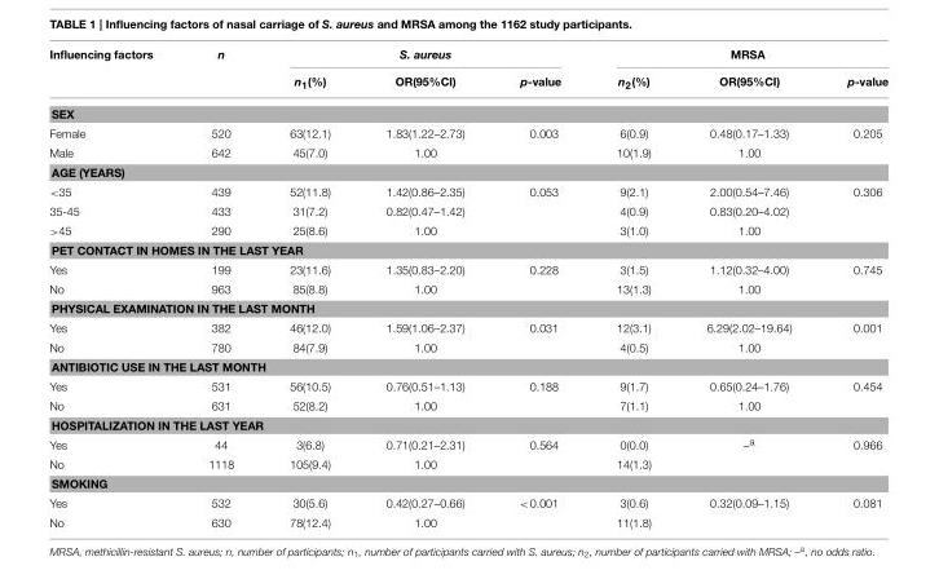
<table><thead><tr><td rowspan="2">Influencing factors</td><td rowspan="2">n</td><td colspan="3">S. aureus</td><td colspan="3">MRSA</td></tr><tr><td>n<sub>1</sub>(%)</td><td>OR(95%CI)</td><td>p-value</td><td>n<sub>2</sub>(%)</td><td>OR(95%CI)</td><td>p-value</td></tr></thead><tbody><tr><td colspan="8">SEX</td></tr><tr><td>Female</td><td>520</td><td>63(12.1)</td><td>1.83(1.22–2.73)</td><td>0.003</td><td>6(0.9)</td><td>0.48(0.17–1.33)</td><td>0.205</td></tr><tr><td>Male</td><td>642</td><td>45(7.0)</td><td>1.00</td><td></td><td>10(1.9)</td><td>1.00</td><td></td></tr><tr><td colspan="8">AGE (YEARS)</td></tr><tr><td>&lt;35</td><td>439</td><td>52(11.8)</td><td>1.42(0.86–2.35)</td><td>0.053</td><td>9(2.1)</td><td>2.00(0.54–7.46)</td><td>0.306</td></tr><tr><td>35-45</td><td>433</td><td>31(7.2)</td><td>0.82(0.47–1.42)</td><td></td><td>4(0.9)</td><td>0.83(0.20–4.02)</td><td></td></tr><tr><td>&gt;45</td><td>290</td><td>25(8.6)</td><td>1.00</td><td></td><td>3(1.0)</td><td>1.00</td><td></td></tr><tr><td colspan="8">PET CONTACT IN HOMES IN THE LAST YEAR</td></tr><tr><td>Yes</td><td>199</td><td>23(11.6)</td><td>1.35(0.83–2.20)</td><td>0.228</td><td>3(1.5)</td><td>1.12(0.32–4.00)</td><td>0.745</td></tr><tr><td>No</td><td>963</td><td>85(8.8)</td><td>1.00</td><td></td><td>13(1.3)</td><td>1.00</td><td></td></tr><tr><td colspan="8">PHYSICAL EXAMINATION IN THE LAST MONTH</td></tr><tr><td>Yes</td><td>382</td><td>46(12.0)</td><td>1.59(1.06–2.37)</td><td>0.031</td><td>12(3.1)</td><td>6.29(2.02–19.64)</td><td>0.001</td></tr><tr><td>No</td><td>780</td><td>84(7.9)</td><td>1.00</td><td></td><td>4(0.5)</td><td>1.00</td><td></td></tr><tr><td colspan="8">ANTIBIOTIC USE IN THE LAST MONTH</td></tr><tr><td>Yes</td><td>531</td><td>56(10.5)</td><td>0.76(0.51–1.13)</td><td>0.188</td><td>9(1.7)</td><td>0.65(0.24–1.76)</td><td>0.454</td></tr><tr><td>No</td><td>631</td><td>52(8.2)</td><td>1.00</td><td></td><td>7(1.1)</td><td>1.00</td><td></td></tr><tr><td colspan="8">HOSPITALIZATION IN THE LAST YEAR</td></tr><tr><td>Yes</td><td>44</td><td>3(6.8)</td><td>0.71(0.21–2.31)</td><td>0.564</td><td>0(0.0)</td><td>–<sup>a</sup></td><td>0.966</td></tr><tr><td>No</td><td>1118</td><td>105(9.4)</td><td>1.00</td><td></td><td>14(1.3)</td><td></td><td></td></tr><tr><td colspan="8">SMOKING</td></tr><tr><td>Yes</td><td>532</td><td>30(5.6)</td><td>0.42(0.27–0.66)</td><td>&lt;0.001</td><td>3(0.6)</td><td>0.32(0.09–1.15)</td><td>0.081</td></tr><tr><td>No</td><td>630</td><td>78(12.4)</td><td>1.00</td><td></td><td>11(1.8)</td><td></td><td></td></tr></tbody></table>